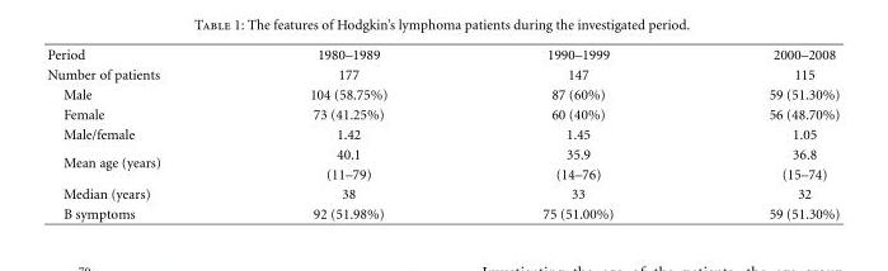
<table><tbody><tr><td>Period</td><td>1980–1989</td><td>1990–1999</td><td>2000–2008</td></tr><tr><td>Number of patients</td><td>177</td><td>147</td><td>115</td></tr><tr><td>Male</td><td>104 (58.75%)</td><td>87 (60%)</td><td>59 (51.30%)</td></tr><tr><td>Female</td><td>73 (41.25%)</td><td>60 (40%)</td><td>56 (48.70%)</td></tr><tr><td>Male/female</td><td>1.42</td><td>1.45</td><td>1.05</td></tr><tr><td rowspan="2">Mean age (years)</td><td>40.1</td><td>35.9</td><td>36.8</td></tr><tr><td>(11–79)</td><td>(14–76)</td><td>(15–74)</td></tr><tr><td>Median (years)</td><td>38</td><td>33</td><td>32</td></tr><tr><td>B symptoms</td><td>92 (51.98%)</td><td>75 (51.00%)</td><td>59 (51.30%)</td></tr></tbody></table>